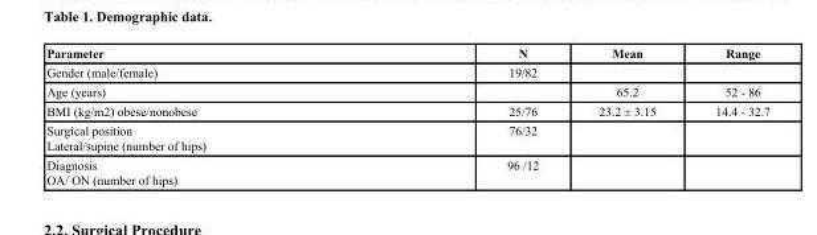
<table><thead><tr><td>Parameter</td><td>N</td><td>Mean</td><td>Range</td></tr></thead><tbody><tr><td>Gender (male/female)</td><td>19/82</td><td></td><td></td></tr><tr><td>Age (years)</td><td></td><td>65.2</td><td>52 - 86</td></tr><tr><td>BMI (kg/m2) obese/nonobese</td><td>25/76</td><td>23.2 ± 3.15</td><td>14.4 - 32.7</td></tr><tr><td>Surgical position Lateral/supine (number of hips)</td><td>76/32</td><td></td><td></td></tr><tr><td>Diagnosis OA/ ON (number of hips)</td><td>96 /12</td><td></td><td></td></tr></tbody></table>